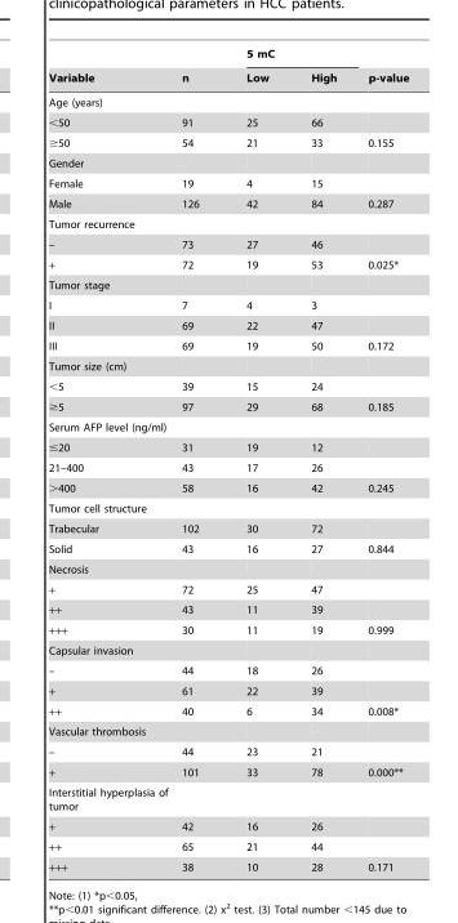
<table><thead><tr><td rowspan="2">Variable</td><td rowspan="2">n</td><td colspan="2">5 mC</td><td rowspan="2">p-value</td></tr><tr><td>Low</td><td>High</td></tr></thead><tbody><tr><td colspan="5">Age (years)</td></tr><tr><td>&lt;50</td><td>91</td><td>25</td><td>66</td><td></td></tr><tr><td>≥50</td><td>54</td><td>21</td><td>33</td><td>0.155</td></tr><tr><td colspan="5">Gender</td></tr><tr><td>Female</td><td>19</td><td>4</td><td>15</td><td></td></tr><tr><td>Male</td><td>126</td><td>42</td><td>84</td><td>0.287</td></tr><tr><td colspan="5">Tumor recurrence</td></tr><tr><td>–</td><td>73</td><td>27</td><td>46</td><td></td></tr><tr><td>+</td><td>72</td><td>19</td><td>53</td><td>0.025*</td></tr><tr><td colspan="5">Tumor stage</td></tr><tr><td>I</td><td>7</td><td>4</td><td>3</td><td></td></tr><tr><td>II</td><td>69</td><td>22</td><td>47</td><td></td></tr><tr><td>III</td><td>69</td><td>19</td><td>50</td><td>0.172</td></tr><tr><td colspan="5">Tumor size (cm)</td></tr><tr><td>&lt;5</td><td>39</td><td>15</td><td>24</td><td></td></tr><tr><td>≥5</td><td>97</td><td>29</td><td>68</td><td>0.185</td></tr><tr><td colspan="5">Serum AFP level (ng/ml)</td></tr><tr><td>≤20</td><td>31</td><td>19</td><td>12</td><td></td></tr><tr><td>21–400</td><td>43</td><td>17</td><td>26</td><td></td></tr><tr><td>&gt;400</td><td>58</td><td>16</td><td>42</td><td>0.245</td></tr><tr><td colspan="5">Tumor cell structure</td></tr><tr><td>Trabecular</td><td>102</td><td>30</td><td>72</td><td></td></tr><tr><td>Solid</td><td>43</td><td>16</td><td>27</td><td>0.844</td></tr><tr><td colspan="5">Necrosis</td></tr><tr><td>+</td><td>72</td><td>25</td><td>47</td><td></td></tr><tr><td>++</td><td>43</td><td>11</td><td>39</td><td></td></tr><tr><td>+++</td><td>30</td><td>11</td><td>19</td><td>0.999</td></tr><tr><td colspan="5">Capsular invasion</td></tr><tr><td>–</td><td>44</td><td>18</td><td>26</td><td></td></tr><tr><td>+</td><td>61</td><td>22</td><td>39</td><td></td></tr><tr><td>++</td><td>40</td><td>6</td><td>34</td><td>0.008*</td></tr><tr><td colspan="5">Vascular thrombosis</td></tr><tr><td>–</td><td>44</td><td>23</td><td>21</td><td></td></tr><tr><td>+</td><td>101</td><td>33</td><td>78</td><td>0.000**</td></tr><tr><td colspan="5">Interstitial hyperplasia of tumor</td></tr><tr><td>+</td><td>42</td><td>16</td><td>26</td><td></td></tr><tr><td>++</td><td>65</td><td>21</td><td>44</td><td></td></tr><tr><td>+++</td><td>38</td><td>10</td><td>28</td><td>0.171</td></tr></tbody></table>